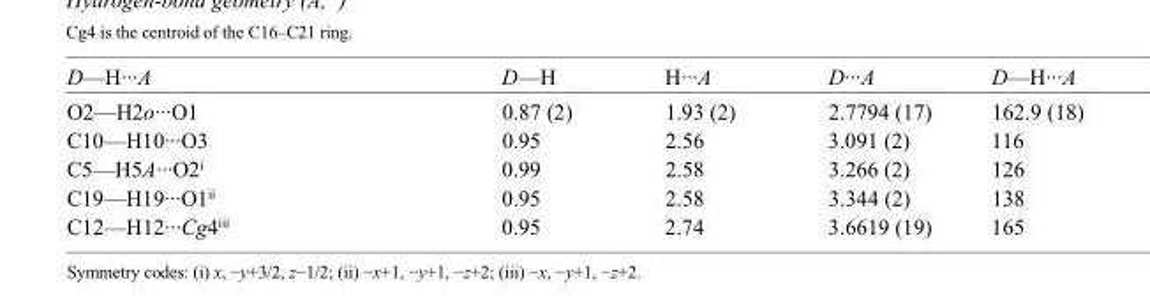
<table><tbody><tr><td>D—H···A</td><td>D—H</td><td>H···A</td><td>D···A</td><td>D—H···A</td></tr><tr><td>O2—H2o···O1</td><td>0.87 (2)</td><td>1.93 (2)</td><td>2.7794 (17)</td><td>162.9 (18)</td></tr><tr><td>C10—H10···O3</td><td>0.95</td><td>2.56</td><td>3.091 (2)</td><td>116</td></tr><tr><td>C5—H5A···O2<sup>i</sup></td><td>0.99</td><td>2.58</td><td>3.266 (2)</td><td>126</td></tr><tr><td>C19—H19···O1<sup>ii</sup></td><td>0.95</td><td>2.58</td><td>3.344 (2)</td><td>138</td></tr><tr><td>C12—H12···Cg4<sup>iii</sup></td><td>0.95</td><td>2.74</td><td>3.6619 (19)</td><td>165</td></tr></tbody></table>